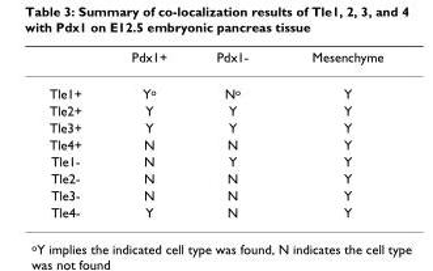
<table><thead><tr><td></td><td>Pdx1+</td><td>Pdx1-</td><td>Mesenchyme</td></tr></thead><tbody><tr><td>Tle1+</td><td>Y<sup>o</sup></td><td>N<sup>o</sup></td><td>Y</td></tr><tr><td>Tle2+</td><td>Y</td><td>Y</td><td>Y</td></tr><tr><td>Tle3+</td><td>Y</td><td>Y</td><td>Y</td></tr><tr><td>Tle4+</td><td>N</td><td>N</td><td>Y</td></tr><tr><td>Tle1-</td><td>N</td><td>Y</td><td>Y</td></tr><tr><td>Tle2-</td><td>N</td><td>N</td><td>Y</td></tr><tr><td>Tle3-</td><td>N</td><td>N</td><td>Y</td></tr><tr><td>Tle4-</td><td>Y</td><td>N</td><td>Y</td></tr></tbody></table>